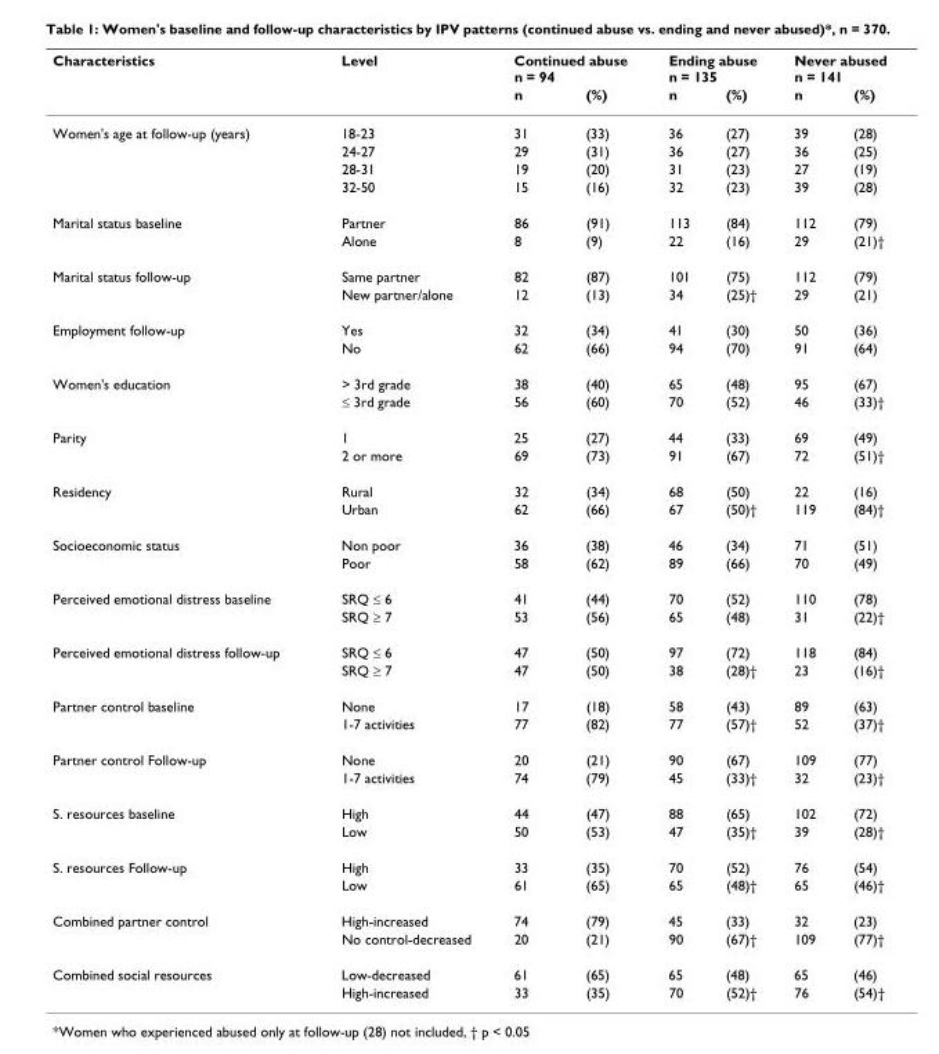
<table><thead><tr><td rowspan="2">Characteristics</td><td rowspan="2">Level</td><td colspan="2">Continued abuse n = 94</td><td colspan="2">Ending abuse n = 135</td><td colspan="2">Never abused n = 141</td></tr><tr><td>n</td><td>(%)</td><td>n</td><td>(%)</td><td>n</td><td>(%)</td></tr></thead><tbody><tr><td rowspan="4">Women&#x27;s age at follow-up (years)</td><td>18-23</td><td>31</td><td>(33)</td><td>36</td><td>(27)</td><td>39</td><td>(28)</td></tr><tr><td>24-27</td><td>29</td><td>(31)</td><td>36</td><td>(27)</td><td>36</td><td>(25)</td></tr><tr><td>28-31</td><td>19</td><td>(20)</td><td>31</td><td>(23)</td><td>27</td><td>(19)</td></tr><tr><td>32-50</td><td>15</td><td>(16)</td><td>32</td><td>(23)</td><td>39</td><td>(28)</td></tr><tr><td rowspan="2">Marital status baseline</td><td>Partner</td><td>86</td><td>(91)</td><td>113</td><td>(84)</td><td>112</td><td>(79)</td></tr><tr><td>Alone</td><td>8</td><td>(9)</td><td>22</td><td>(16)</td><td>29</td><td>(21)†</td></tr><tr><td rowspan="2">Marital status follow-up</td><td>Same partner</td><td>82</td><td>(87)</td><td>101</td><td>(75)</td><td>112</td><td>(79)</td></tr><tr><td>New partner/alone</td><td>12</td><td>(13)</td><td>34</td><td>(25)†</td><td>29</td><td>(21)</td></tr><tr><td rowspan="2">Employment follow-up</td><td>Yes</td><td>32</td><td>(34)</td><td>41</td><td>(30)</td><td>50</td><td>(36)</td></tr><tr><td>No</td><td>62</td><td>(66)</td><td>94</td><td>(70)</td><td>91</td><td>(64)</td></tr><tr><td rowspan="2">Women&#x27;s education</td><td>&gt; 3rd grade</td><td>38</td><td>(40)</td><td>65</td><td>(48)</td><td>95</td><td>(67)</td></tr><tr><td>≤ 3rd grade</td><td>56</td><td>(60)</td><td>70</td><td>(52)</td><td>46</td><td>(33)†</td></tr><tr><td rowspan="2">Parity</td><td>1</td><td>25</td><td>(27)</td><td>44</td><td>(33)</td><td>69</td><td>(49)</td></tr><tr><td>2 or more</td><td>69</td><td>(73)</td><td>91</td><td>(67)</td><td>72</td><td>(51)†</td></tr><tr><td rowspan="2">Residency</td><td>Rural</td><td>32</td><td>(34)</td><td>68</td><td>(50)</td><td>22</td><td>(16)</td></tr><tr><td>Urban</td><td>62</td><td>(66)</td><td>67</td><td>(50)†</td><td>119</td><td>(84)†</td></tr><tr><td rowspan="2">Socioeconomic status</td><td>Non poor</td><td>36</td><td>(38)</td><td>46</td><td>(34)</td><td>71</td><td>(51)</td></tr><tr><td>Poor</td><td>58</td><td>(62)</td><td>89</td><td>(66)</td><td>70</td><td>(49)</td></tr><tr><td rowspan="2">Perceived emotional distress baseline</td><td>SRQ ≤ 6</td><td>41</td><td>(44)</td><td>70</td><td>(52)</td><td>110</td><td>(78)</td></tr><tr><td>SRQ ≥ 7</td><td>53</td><td>(56)</td><td>65</td><td>(48)</td><td>31</td><td>(22)†</td></tr><tr><td rowspan="2">Perceived emotional distress follow-up</td><td>SRQ ≤ 6</td><td>47</td><td>(50)</td><td>97</td><td>(72)</td><td>118</td><td>(84)</td></tr><tr><td>SRQ ≥ 7</td><td>47</td><td>(50)</td><td>38</td><td>(28)†</td><td>23</td><td>(16)†</td></tr><tr><td rowspan="2">Partner control baseline</td><td>None</td><td>17</td><td>(18)</td><td>58</td><td>(43)</td><td>89</td><td>(63)</td></tr><tr><td>1-7 activities</td><td>77</td><td>(82)</td><td>77</td><td>(57)†</td><td>52</td><td>(37)†</td></tr><tr><td rowspan="2">Partner control Follow-up</td><td>None</td><td>20</td><td>(21)</td><td>90</td><td>(67)</td><td>109</td><td>(77)</td></tr><tr><td>1-7 activities</td><td>74</td><td>(79)</td><td>45</td><td>(33)†</td><td>32</td><td>(23)†</td></tr><tr><td rowspan="2">S. resources baseline</td><td>High</td><td>44</td><td>(47)</td><td>88</td><td>(65)</td><td>102</td><td>(72)</td></tr><tr><td>Low</td><td>50</td><td>(53)</td><td>47</td><td>(35)†</td><td>39</td><td>(28)†</td></tr><tr><td rowspan="2">S. resources Follow-up</td><td>High</td><td>33</td><td>(35)</td><td>70</td><td>(52)</td><td>76</td><td>(54)</td></tr><tr><td>Low</td><td>61</td><td>(65)</td><td>65</td><td>(48)†</td><td>65</td><td>(46)†</td></tr><tr><td rowspan="2">Combined partner control</td><td>High-increased</td><td>74</td><td>(79)</td><td>45</td><td>(33)</td><td>32</td><td>(23)</td></tr><tr><td>No control-decreased</td><td>20</td><td>(21)</td><td>90</td><td>(67)†</td><td>109</td><td>(77)†</td></tr><tr><td rowspan="2">Combined social resources</td><td>Low-decreased</td><td>61</td><td>(65)</td><td>65</td><td>(48)</td><td>65</td><td>(46)</td></tr><tr><td>High-increased</td><td>33</td><td>(35)</td><td>70</td><td>(52)†</td><td>76</td><td>(54)†</td></tr></tbody></table>